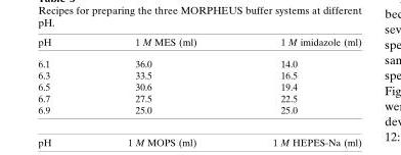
<table><thead><tr><td>pH</td><td>1 M MES (ml)</td><td>1 M imidazole (ml)</td></tr></thead><tbody><tr><td>6.1</td><td>36.0</td><td>14.0</td></tr><tr><td>6.3</td><td>33.5</td><td>16.5</td></tr><tr><td>6.5</td><td>30.6</td><td>19.4</td></tr><tr><td>6.7</td><td>27.5</td><td>22.5</td></tr><tr><td>6.9</td><td>25.0</td><td>25.0</td></tr></tbody></table>